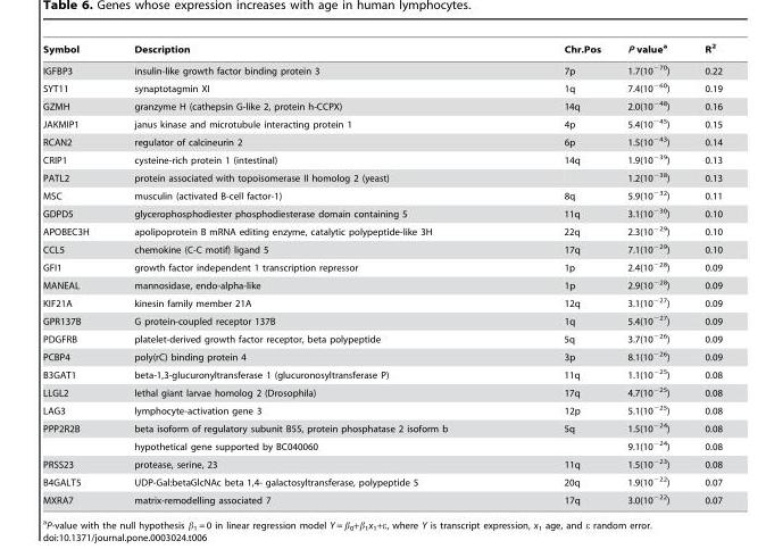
<table><thead><tr><td>Symbol</td><td>Description</td><td>Chr.Pos</td><td>P value<sup>a</sup></td><td>R<sup>2</sup></td></tr></thead><tbody><tr><td>IGFBP3</td><td>insulin-like growth factor binding protein 3</td><td>7p</td><td>1.7(10<sup>−70</sup>)</td><td>0.22</td></tr><tr><td>SYT11</td><td>synaptotagmin XI</td><td>1q</td><td>7.4(10<sup>−60</sup>)</td><td>0.19</td></tr><tr><td>GZMH</td><td>granzyme H (cathepsin G-like 2, protein h-CCPX)</td><td>14q</td><td>2.0(10<sup>−48</sup>)</td><td>0.16</td></tr><tr><td>JAKMIP1</td><td>janus kinase and microtubule interacting protein 1</td><td>4p</td><td>5.4(10<sup>−45</sup>)</td><td>0.15</td></tr><tr><td>RCAN2</td><td>regulator of calcineurin 2</td><td>6p</td><td>1.5(10<sup>−43</sup>)</td><td>0.14</td></tr><tr><td>CRIP1</td><td>cysteine-rich protein 1 (intestinal)</td><td>14q</td><td>1.9(10<sup>−39</sup>)</td><td>0.13</td></tr><tr><td>PATL2</td><td>protein associated with topoisomerase II homolog 2 (yeast)</td><td></td><td>1.2(10<sup>−38</sup>)</td><td>0.13</td></tr><tr><td>MSC</td><td>musculin (activated B-cell factor-1)</td><td>8q</td><td>5.9(10<sup>−32</sup>)</td><td>0.11</td></tr><tr><td>GDPD5</td><td>glycerophosphodiester phosphodiesterase domain containing 5</td><td>11q</td><td>3.1(10<sup>−30</sup>)</td><td>0.10</td></tr><tr><td>APOBEC3H</td><td>apolipoprotein B mRNA editing enzyme, catalytic polypeptide-like 3H</td><td>22q</td><td>2.3(10<sup>−29</sup>)</td><td>0.10</td></tr><tr><td>CCL5</td><td>chemokine (C-C motif) ligand 5</td><td>17q</td><td>7.1(10<sup>−29</sup>)</td><td>0.10</td></tr><tr><td>GFI1</td><td>growth factor independent 1 transcription repressor</td><td>1p</td><td>2.4(10<sup>−28</sup>)</td><td>0.09</td></tr><tr><td>MANEAL</td><td>mannosidase, endo-alpha-like</td><td>1p</td><td>2.9(10<sup>−28</sup>)</td><td>0.09</td></tr><tr><td>KIF21A</td><td>kinesin family member 21A</td><td>12q</td><td>3.1(10<sup>−27</sup>)</td><td>0.09</td></tr><tr><td>GPR137B</td><td>G protein-coupled receptor 137B</td><td>1q</td><td>5.4(10<sup>−27</sup>)</td><td>0.09</td></tr><tr><td>PDGFRB</td><td>platelet-derived growth factor receptor, beta polypeptide</td><td>5q</td><td>3.7(10<sup>−26</sup>)</td><td>0.09</td></tr><tr><td>PCBP4</td><td>poly(rC) binding protein 4</td><td>3p</td><td>8.1(10<sup>−26</sup>)</td><td>0.09</td></tr><tr><td>B3GAT1</td><td>beta-1,3-glucuronyltransferase 1 (glucuronosyltransferase P)</td><td>11q</td><td>1.1(10<sup>−25</sup>)</td><td>0.08</td></tr><tr><td>LLGL2</td><td>lethal giant larvae homolog 2 (Drosophila)</td><td>17q</td><td>4.7(10<sup>−25</sup>)</td><td>0.08</td></tr><tr><td>LAG3</td><td>lymphocyte-activation gene 3</td><td>12p</td><td>5.1(10<sup>−25</sup>)</td><td>0.08</td></tr><tr><td rowspan="2">PPP2R2B</td><td>beta isoform of regulatory subunit B55, protein phosphatase 2 isoform b</td><td>5q</td><td>1.5(10<sup>−24</sup>)</td><td>0.08</td></tr><tr><td>hypothetical gene supported by BC040060</td><td></td><td>9.1(10<sup>−24</sup>)</td><td>0.08</td></tr><tr><td>PRSS23</td><td>protease, serine, 23</td><td>11q</td><td>1.5(10<sup>−23</sup>)</td><td>0.08</td></tr><tr><td>B4GALT5</td><td>UDP-Gal:betaGlcNAc beta 1,4- galactosyltransferase, polypeptide 5</td><td>20q</td><td>1.9(10<sup>−22</sup>)</td><td>0.07</td></tr><tr><td>MXRA7</td><td>matrix-remodelling associated 7</td><td>17q</td><td>3.0(10<sup>−22</sup>)</td><td>0.07</td></tr></tbody></table>